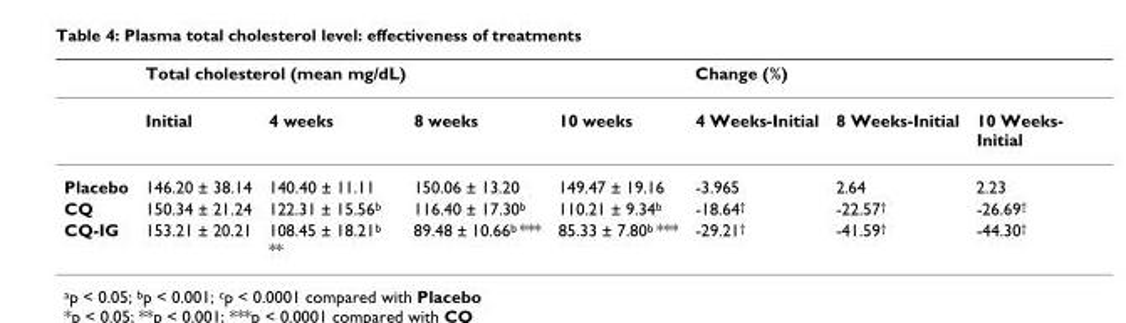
<table><thead><tr><td rowspan="2"></td><td colspan="4">Total cholesterol (mean mg/dL)</td><td colspan="3">Change (%)</td></tr><tr><td>Initial</td><td>4 weeks</td><td>8 weeks</td><td>10 weeks</td><td>4 Weeks-Initial</td><td>8 Weeks-Initial</td><td>10 Weeks- Initial</td></tr></thead><tbody><tr><td>Placebo</td><td>146.20 ± 38.14</td><td>140.40 ± 11.11</td><td>150.06 ± 13.20</td><td>149.47 ± 19.16</td><td>-3.965</td><td>2.64</td><td>2.23</td></tr><tr><td>CQ</td><td>150.34 ± 21.24</td><td>122.31 ± 15.56<sup>b</sup></td><td>116.40 ± 17.30<sup>b</sup></td><td>110.21 ± 9.34<sup>b</sup></td><td>-18.64<sup>†</sup></td><td>-22.57<sup>†</sup></td><td>-26.69<sup>†</sup></td></tr><tr><td>CQ-IG</td><td>153.21 ± 20.21</td><td>108.45 ± 18.21<sup>b</sup> **</td><td>89.48 ± 10.66<sup>b</sup> ***</td><td>85.33 ± 7.80<sup>b</sup> ***</td><td>-29.21<sup>†</sup></td><td>-41.59<sup>†</sup></td><td>-44.30<sup>†</sup></td></tr></tbody></table>